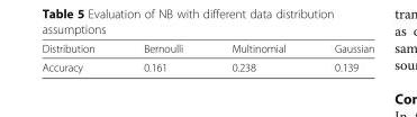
<table><thead><tr><td>Distribution</td><td>Bernoulli</td><td>Multinomial</td><td>Gaussian</td></tr></thead><tbody><tr><td>Accuracy</td><td>0.161</td><td>0.238</td><td>0.139</td></tr></tbody></table>